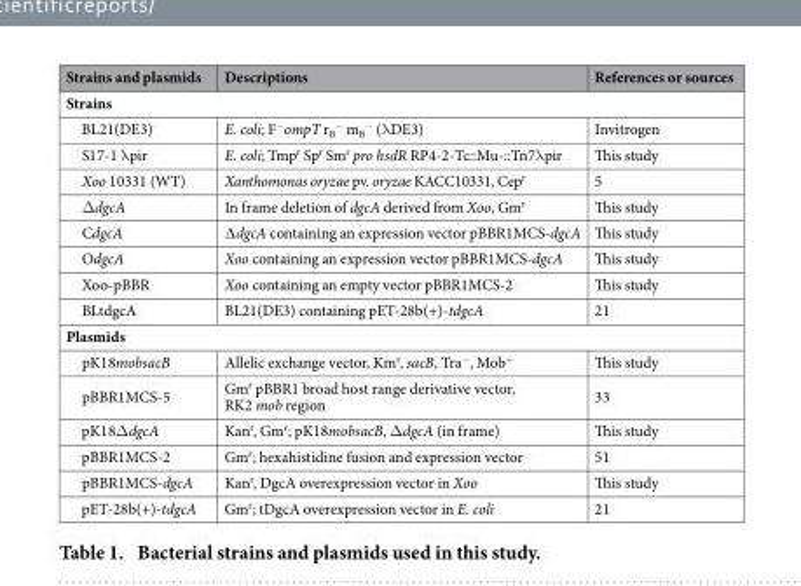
<table><thead><tr><td>Strains and plasmids</td><td>Descriptions</td><td>References or sources</td></tr></thead><tbody><tr><td colspan="3">Strains</td></tr><tr><td>BL21(DE3)</td><td>E. coli; F<sup>−</sup>ompT r<sub>B</sub> <sup>−</sup> m<sub>B</sub> <sup>−</sup> (λ DE3)</td><td>Invitrogen</td></tr><tr><td>S17-1 λ pir</td><td>E. coli; Tmp<sup>r</sup> Sp<sup>r</sup> Sm<sup>r</sup> pro hsdR RP4-2-Tc::Mu-::Tn7λ pir</td><td>This study</td></tr><tr><td>Xoo 10331 (WT)</td><td>Xanthomonas oryzae pv. oryzae KACC10331, Cep<sup>r</sup></td><td>5</td></tr><tr><td>Δ dgcA</td><td>In frame deletion of dgcA derived from Xoo, Gm<sup>r</sup></td><td>This study</td></tr><tr><td>CdgcA</td><td>∆ dgcA containing an expression vector pBBR1MCS-dgcA</td><td>This study</td></tr><tr><td>OdgcA</td><td>Xoo containing an expression vector pBBR1MCS-dgcA</td><td>This study</td></tr><tr><td>Xoo-pBBR</td><td>Xoo containing an empty vector pBBR1MCS-2</td><td>This study</td></tr><tr><td>BLtdgcA</td><td>BL21(DE3) containing pET-28b(+)-tdgcA</td><td>21</td></tr><tr><td colspan="3">Plasmids</td></tr><tr><td>pK18mobsacB</td><td>Allelic exchange vector, Km<sup>r</sup>, sacB, Tra<sup>−</sup>, Mob<sup>+</sup></td><td>This study</td></tr><tr><td>pBBR1MCS-5</td><td>Gm<sup>r</sup> pBBR1 broad host range derivative vector, RK2 mob region</td><td>33</td></tr><tr><td>pK18Δ dgcA</td><td>Kan<sup>r</sup>, Gm<sup>r</sup>; pK18mobsacB, ΔdgcA (in frame)</td><td>This study</td></tr><tr><td>pBBR1MCS-2</td><td>Gm<sup>r</sup>; hexahistidine fusion and expression vector</td><td>51</td></tr><tr><td>pBBR1MCS-dgcA</td><td>Kan<sup>r</sup>, DgcA overexpression vector in Xoo</td><td>This study</td></tr><tr><td>pET-28b(+)-tdgcA</td><td>Gm<sup>r</sup>; tDgcA overexpression vector in E. coli</td><td>21</td></tr></tbody></table>